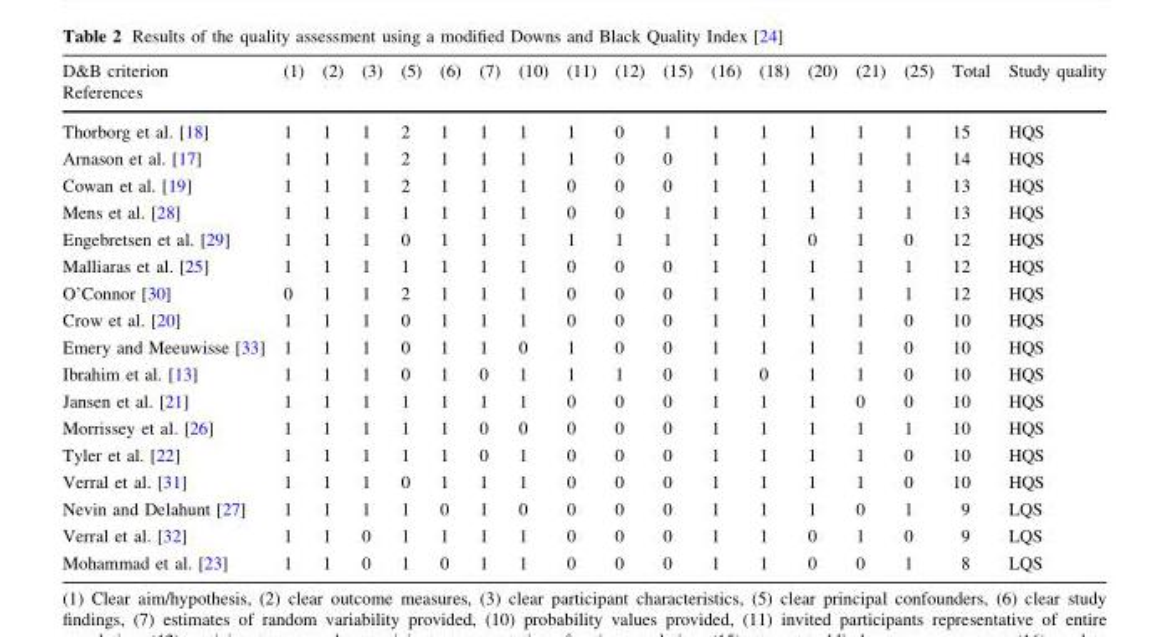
<table><thead><tr><td>D&amp;B criterion References</td><td>(1)</td><td>(2)</td><td>(3)</td><td>(5)</td><td>(6)</td><td>(7)</td><td>(10)</td><td>(11)</td><td>(12)</td><td>(15)</td><td>(16)</td><td>(18)</td><td>(20)</td><td>(21)</td><td>(25)</td><td>Total</td><td>Study quality</td></tr></thead><tbody><tr><td>Thorborg et al. [18]</td><td>1</td><td>1</td><td>1</td><td>2</td><td>1</td><td>1</td><td>1</td><td>1</td><td>0</td><td>1</td><td>1</td><td>1</td><td>1</td><td>1</td><td>1</td><td>15</td><td>HQS</td></tr><tr><td>Arnason et al. [17]</td><td>1</td><td>1</td><td>1</td><td>2</td><td>1</td><td>1</td><td>1</td><td>1</td><td>0</td><td>0</td><td>1</td><td>1</td><td>1</td><td>1</td><td>1</td><td>14</td><td>HQS</td></tr><tr><td>Cowan et al. [19]</td><td>1</td><td>1</td><td>1</td><td>2</td><td>1</td><td>1</td><td>1</td><td>0</td><td>0</td><td>0</td><td>1</td><td>1</td><td>1</td><td>1</td><td>1</td><td>13</td><td>HQS</td></tr><tr><td>Mens et al. [28]</td><td>1</td><td>1</td><td>1</td><td>1</td><td>1</td><td>1</td><td>1</td><td>0</td><td>0</td><td>1</td><td>1</td><td>1</td><td>1</td><td>1</td><td>1</td><td>13</td><td>HQS</td></tr><tr><td>Engebretsen et al. [29]</td><td>1</td><td>1</td><td>1</td><td>0</td><td>1</td><td>1</td><td>1</td><td>1</td><td>1</td><td>1</td><td>1</td><td>1</td><td>0</td><td>1</td><td>0</td><td>12</td><td>HQS</td></tr><tr><td>Malliaras et al. [25]</td><td>1</td><td>1</td><td>1</td><td>1</td><td>1</td><td>1</td><td>1</td><td>0</td><td>0</td><td>0</td><td>1</td><td>1</td><td>1</td><td>1</td><td>1</td><td>12</td><td>HQS</td></tr><tr><td>O’Connor [30]</td><td>0</td><td>1</td><td>1</td><td>2</td><td>1</td><td>1</td><td>1</td><td>0</td><td>0</td><td>0</td><td>1</td><td>1</td><td>1</td><td>1</td><td>1</td><td>12</td><td>HQS</td></tr><tr><td>Crow et al. [20]</td><td>1</td><td>1</td><td>1</td><td>0</td><td>1</td><td>1</td><td>1</td><td>0</td><td>0</td><td>0</td><td>1</td><td>1</td><td>1</td><td>1</td><td>0</td><td>10</td><td>HQS</td></tr><tr><td>Emery and Meeuwisse [33]</td><td>1</td><td>1</td><td>1</td><td>0</td><td>1</td><td>1</td><td>0</td><td>1</td><td>0</td><td>0</td><td>1</td><td>1</td><td>1</td><td>1</td><td>0</td><td>10</td><td>HQS</td></tr><tr><td>Ibrahim et al. [13]</td><td>1</td><td>1</td><td>1</td><td>0</td><td>1</td><td>0</td><td>1</td><td>1</td><td>1</td><td>0</td><td>1</td><td>0</td><td>1</td><td>1</td><td>0</td><td>10</td><td>HQS</td></tr><tr><td>Jansen et al. [21]</td><td>1</td><td>1</td><td>1</td><td>1</td><td>1</td><td>1</td><td>1</td><td>0</td><td>0</td><td>0</td><td>1</td><td>1</td><td>1</td><td>0</td><td>0</td><td>10</td><td>HQS</td></tr><tr><td>Morrissey et al. [26]</td><td>1</td><td>1</td><td>1</td><td>1</td><td>1</td><td>0</td><td>0</td><td>0</td><td>0</td><td>0</td><td>1</td><td>1</td><td>1</td><td>1</td><td>1</td><td>10</td><td>HQS</td></tr><tr><td>Tyler et al. [22]</td><td>1</td><td>1</td><td>1</td><td>1</td><td>1</td><td>0</td><td>1</td><td>0</td><td>0</td><td>0</td><td>1</td><td>1</td><td>1</td><td>1</td><td>0</td><td>10</td><td>HQS</td></tr><tr><td>Verral et al. [31]</td><td>1</td><td>1</td><td>1</td><td>0</td><td>1</td><td>1</td><td>1</td><td>0</td><td>0</td><td>0</td><td>1</td><td>1</td><td>1</td><td>1</td><td>0</td><td>10</td><td>HQS</td></tr><tr><td>Nevin and Delahunt [27]</td><td>1</td><td>1</td><td>1</td><td>1</td><td>0</td><td>1</td><td>0</td><td>0</td><td>0</td><td>0</td><td>1</td><td>1</td><td>1</td><td>0</td><td>1</td><td>9</td><td>LQS</td></tr><tr><td>Verral et al. [32]</td><td>1</td><td>1</td><td>0</td><td>1</td><td>1</td><td>1</td><td>1</td><td>0</td><td>0</td><td>0</td><td>1</td><td>1</td><td>0</td><td>1</td><td>0</td><td>9</td><td>LQS</td></tr><tr><td>Mohammad et al. [23]</td><td>1</td><td>1</td><td>0</td><td>1</td><td>0</td><td>1</td><td>1</td><td>0</td><td>0</td><td>0</td><td>1</td><td>1</td><td>0</td><td>0</td><td>1</td><td>8</td><td>LQS</td></tr></tbody></table>